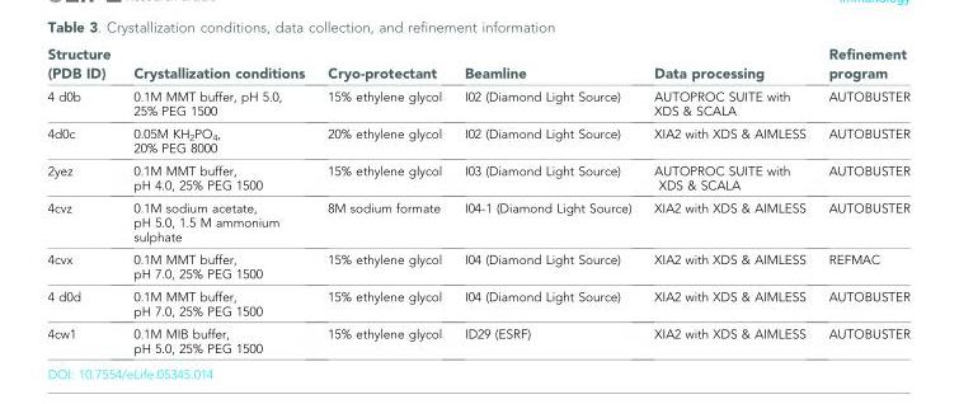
<table><thead><tr><td>Structure (PDB ID)</td><td>Crystallization conditions</td><td>Cryo-protectant</td><td>Beamline</td><td>Data processing</td><td>Refinement program</td></tr></thead><tbody><tr><td>4 d0b</td><td>0.1M MMT buffer, pH 5.0, 25% PEG 1500</td><td>15% ethylene glycol</td><td>I02 (Diamond Light Source)</td><td>AUTOPROC SUITE with XDS &amp; SCALA</td><td>AUTOBUSTER</td></tr><tr><td>4d0c</td><td>0.05M KH<sub>2</sub>PO<sub>4</sub>, 20% PEG 8000</td><td>20% ethylene glycol</td><td>I02 (Diamond Light Source)</td><td>XIA2 with XDS &amp; AIMLESS</td><td>AUTOBUSTER</td></tr><tr><td>2yez</td><td>0.1M MMT buffer, pH 4.0, 25% PEG 1500</td><td>15% ethylene glycol</td><td>I03 (Diamond Light Source)</td><td>AUTOPROC SUITE with XDS &amp; SCALA</td><td>AUTOBUSTER</td></tr><tr><td>4cvz</td><td>0.1M sodium acetate, pH 5.0, 1.5 M ammonium sulphate</td><td>8M sodium formate</td><td>I04-1 (Diamond Light Source)</td><td>XIA2 with XDS &amp; AIMLESS</td><td>AUTOBUSTER</td></tr><tr><td>4cvx</td><td>0.1M MMT buffer, pH 7.0, 25% PEG 1500</td><td>15% ethylene glycol</td><td>I04 (Diamond Light Source)</td><td>XIA2 with XDS &amp; AIMLESS</td><td>REFMAC</td></tr><tr><td>4 d0d</td><td>0.1M MMT buffer, pH 7.0, 25% PEG 1500</td><td>15% ethylene glycol</td><td>I04 (Diamond Light Source)</td><td>XIA2 with XDS &amp; AIMLESS</td><td>AUTOBUSTER</td></tr><tr><td>4cw1</td><td>0.1M MIB buffer, pH 5.0, 25% PEG 1500</td><td>15% ethylene glycol</td><td>ID29 (ESRF)</td><td>XIA2 with XDS &amp; AIMLESS</td><td>AUTOBUSTER</td></tr></tbody></table>